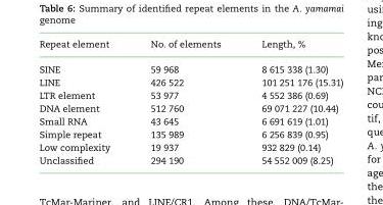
<table><thead><tr><td>Repeat element</td><td>No. of elements</td><td>Length, %</td></tr></thead><tbody><tr><td>SINE</td><td>59 968</td><td>8 615 338 (1.30)</td></tr><tr><td>LINE</td><td>426 522</td><td>101 251 176 (15.31)</td></tr><tr><td>LTR element</td><td>53 977</td><td>4 552 386 (0.69)</td></tr><tr><td>DNA element</td><td>512 760</td><td>69 071 227 (10.44)</td></tr><tr><td>Small RNA</td><td>43 645</td><td>6 691 619 (1.01)</td></tr><tr><td>Simple repeat</td><td>135 989</td><td>6 256 839 (0.95)</td></tr><tr><td>Low complexity</td><td>19 937</td><td>932 829 (0.14)</td></tr><tr><td>Unclassified</td><td>294 190</td><td>54 552 009 (8.25)</td></tr></tbody></table>